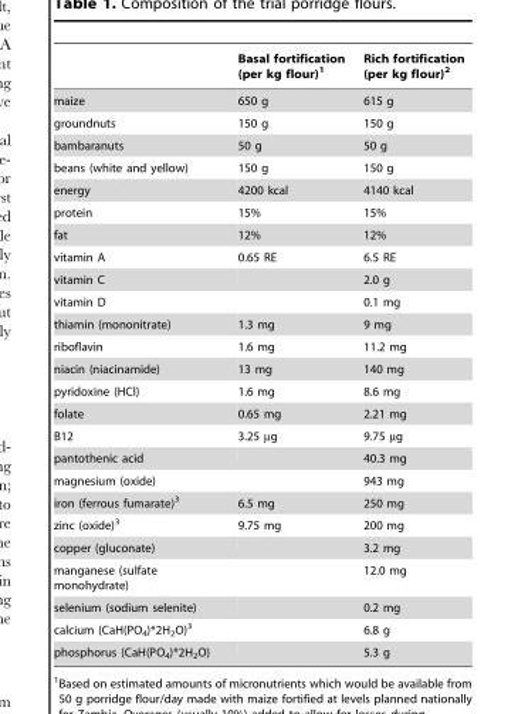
<table><thead><tr><td></td><td>Basal fortification (per kg flour)<sup>1</sup></td><td>Rich fortification (per kg flour)<sup>2</sup></td></tr></thead><tbody><tr><td>maize</td><td>650 g</td><td>615 g</td></tr><tr><td>groundnuts</td><td>150 g</td><td>150 g</td></tr><tr><td>bambaranuts</td><td>50 g</td><td>50 g</td></tr><tr><td>beans (white and yellow)</td><td>150 g</td><td>150 g</td></tr><tr><td>energy</td><td>4200 kcal</td><td>4140 kcal</td></tr><tr><td>protein</td><td>15%</td><td>15%</td></tr><tr><td>fat</td><td>12%</td><td>12%</td></tr><tr><td>vitamin A</td><td>0.65 RE</td><td>6.5 RE</td></tr><tr><td>vitamin C</td><td></td><td>2.0 g</td></tr><tr><td>vitamin D</td><td></td><td>0.1 mg</td></tr><tr><td>thiamin (mononitrate)</td><td>1.3 mg</td><td>9 mg</td></tr><tr><td>riboflavin</td><td>1.6 mg</td><td>11.2 mg</td></tr><tr><td>niacin (niacinamide)</td><td>13 mg</td><td>140 mg</td></tr><tr><td>pyridoxine (HCl)</td><td>1.6 mg</td><td>8.6 mg</td></tr><tr><td>folate</td><td>0.65 mg</td><td>2.21 mg</td></tr><tr><td>B12</td><td>3.25 µg</td><td>9.75 µg</td></tr><tr><td>pantothenic acid</td><td></td><td>40.3 mg</td></tr><tr><td>magnesium (oxide)</td><td></td><td>943 mg</td></tr><tr><td>iron (ferrous fumarate)<sup>3</sup></td><td>6.5 mg</td><td>250 mg</td></tr><tr><td>zinc (oxide)<sup>3</sup></td><td>9.75 mg</td><td>200 mg</td></tr><tr><td>copper (gluconate)</td><td></td><td>3.2 mg</td></tr><tr><td>manganese (sulfate monohydrate)</td><td></td><td>12.0 mg</td></tr><tr><td>selenium (sodium selenite)</td><td></td><td>0.2 mg</td></tr><tr><td>calcium (CaH(PO<sub>4</sub>)*2H<sub>2</sub>O)<sup>3</sup></td><td></td><td>6.8 g</td></tr><tr><td>phosphorus (CaH(PO<sub>4</sub>)*2H<sub>2</sub>O)</td><td></td><td>5.3 g</td></tr></tbody></table>